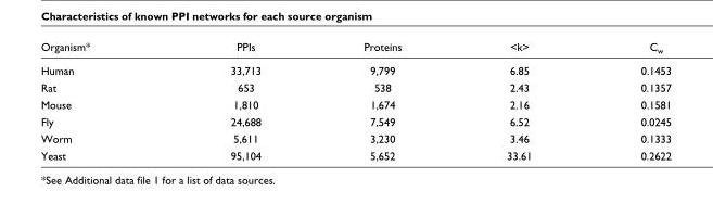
<table><thead><tr><td>Organism*</td><td>PPIs</td><td>Proteins</td><td>&lt;k&gt;</td><td>C<sub>w</sub></td></tr></thead><tbody><tr><td>Human</td><td>33,713</td><td>9,799</td><td>6.85</td><td>0.1453</td></tr><tr><td>Rat</td><td>653</td><td>538</td><td>2.43</td><td>0.1357</td></tr><tr><td>Mouse</td><td>1,810</td><td>1,674</td><td>2.16</td><td>0.1581</td></tr><tr><td>Fly</td><td>24,688</td><td>7,549</td><td>6.52</td><td>0.0245</td></tr><tr><td>Worm</td><td>5,611</td><td>3,230</td><td>3.46</td><td>0.1333</td></tr><tr><td>Yeast</td><td>95,104</td><td>5,652</td><td>33.61</td><td>0.2622</td></tr></tbody></table>